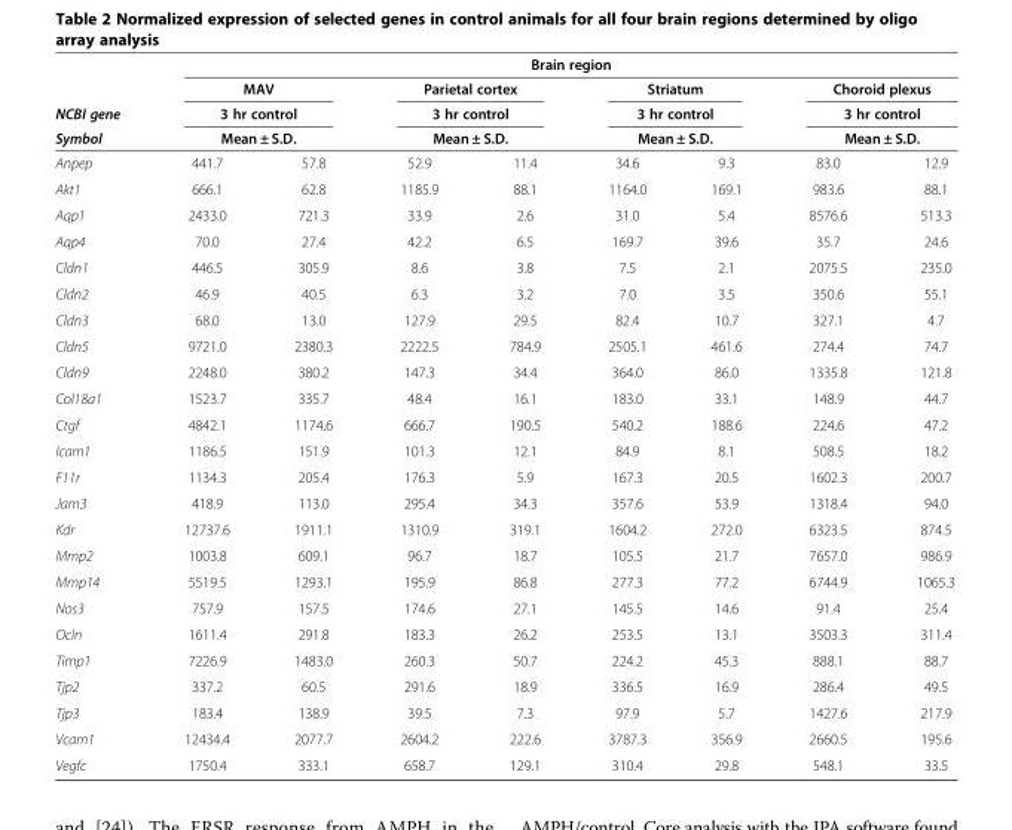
<table><thead><tr><td rowspan="5">NCBI gene Symbol Anpep</td><td colspan="8">Brain region</td></tr><tr><td rowspan="3" colspan="2">MAV 3 hr control Mean ± S.D.</td><td rowspan="3" colspan="2">Parietal cortex 3 hr control Mean ± S.D.</td><td rowspan="3" colspan="2">Striatum 3 hr control Mean ± S.D.</td><td rowspan="3" colspan="2">Choroid plexus 3 hr control Mean ± S.D.</td></tr><tr></tr><tr></tr><tr><td>441.7</td><td>57.8</td><td>52.9</td><td>11.4</td><td>34.6</td><td>9.3</td><td>83.0</td><td>12.9</td></tr></thead><tbody><tr><td>Akt1</td><td>666.1</td><td>62.8</td><td>1185.9</td><td>88.1</td><td>1164.0</td><td>169.1</td><td>983.6</td><td>88.1</td></tr><tr><td>Aqp1</td><td>2433.0</td><td>721.3</td><td>33.9</td><td>2.6</td><td>31.0</td><td>5.4</td><td>8576.6</td><td>513.3</td></tr><tr><td>Aqp4</td><td>70.0</td><td>27.4</td><td>42.2</td><td>6.5</td><td>169.7</td><td>39.6</td><td>35.7</td><td>24.6</td></tr><tr><td>Cldn1</td><td>446.5</td><td>305.9</td><td>8.6</td><td>3.8</td><td>7.5</td><td>2.1</td><td>2075.5</td><td>235.0</td></tr><tr><td>Cldn2</td><td>46.9</td><td>40.5</td><td>6.3</td><td>3.2</td><td>7.0</td><td>3.5</td><td>350.6</td><td>55.1</td></tr><tr><td>Cldn3</td><td>68.0</td><td>13.0</td><td>127.9</td><td>29.5</td><td>82.4</td><td>10.7</td><td>327.1</td><td>4.7</td></tr><tr><td>Cldn5</td><td>9721.0</td><td>2380.3</td><td>2222.5</td><td>784.9</td><td>2505.1</td><td>461.6</td><td>274.4</td><td>74.7</td></tr><tr><td>Cldn9</td><td>2248.0</td><td>380.2</td><td>147.3</td><td>34.4</td><td>364.0</td><td>86.0</td><td>1335.8</td><td>121.8</td></tr><tr><td>Col18a1</td><td>1523.7</td><td>335.7</td><td>48.4</td><td>16.1</td><td>183.0</td><td>33.1</td><td>148.9</td><td>44.7</td></tr><tr><td>Ctgf</td><td>4842.1</td><td>1174.6</td><td>666.7</td><td>190.5</td><td>540.2</td><td>188.6</td><td>224.6</td><td>47.2</td></tr><tr><td>Icam1</td><td>1186.5</td><td>151.9</td><td>101.3</td><td>12.1</td><td>84.9</td><td>8.1</td><td>508.5</td><td>18.2</td></tr><tr><td>F11r</td><td>1134.3</td><td>205.4</td><td>176.3</td><td>5.9</td><td>167.3</td><td>20.5</td><td>1602.3</td><td>200.7</td></tr><tr><td>Jam3</td><td>418.9</td><td>113.0</td><td>295.4</td><td>34.3</td><td>357.6</td><td>53.9</td><td>1318.4</td><td>94.0</td></tr><tr><td>Kdr</td><td>12737.6</td><td>1911.1</td><td>1310.9</td><td>319.1</td><td>1604.2</td><td>272.0</td><td>6323.5</td><td>874.5</td></tr><tr><td>Mmp2</td><td>1003.8</td><td>609.1</td><td>96.7</td><td>18.7</td><td>105.5</td><td>21.7</td><td>7657.0</td><td>986.9</td></tr><tr><td>Mmp14</td><td>5519.5</td><td>1293.1</td><td>195.9</td><td>86.8</td><td>277.3</td><td>77.2</td><td>6744.9</td><td>1065.3</td></tr><tr><td>Nos3</td><td>757.9</td><td>157.5</td><td>174.6</td><td>27.1</td><td>145.5</td><td>14.6</td><td>91.4</td><td>25.4</td></tr><tr><td>Ocln</td><td>1611.4</td><td>291.8</td><td>183.3</td><td>26.2</td><td>253.5</td><td>13.1</td><td>3503.3</td><td>311.4</td></tr><tr><td>Timp1</td><td>7226.9</td><td>1483.0</td><td>260.3</td><td>50.7</td><td>224.2</td><td>45.3</td><td>888.1</td><td>88.7</td></tr><tr><td>Tjp2</td><td>337.2</td><td>60.5</td><td>291.6</td><td>18.9</td><td>336.5</td><td>16.9</td><td>286.4</td><td>49.5</td></tr><tr><td>Tjp3</td><td>183.4</td><td>138.9</td><td>39.5</td><td>7.3</td><td>97.9</td><td>5.7</td><td>1427.6</td><td>217.9</td></tr><tr><td>Vcam1</td><td>12434.4</td><td>2077.7</td><td>2604.2</td><td>222.6</td><td>3787.3</td><td>356.9</td><td>2660.5</td><td>195.6</td></tr><tr><td>Vegfc</td><td>1750.4</td><td>333.1</td><td>658.7</td><td>129.1</td><td>310.4</td><td>29.8</td><td>548.1</td><td>33.5</td></tr></tbody></table>